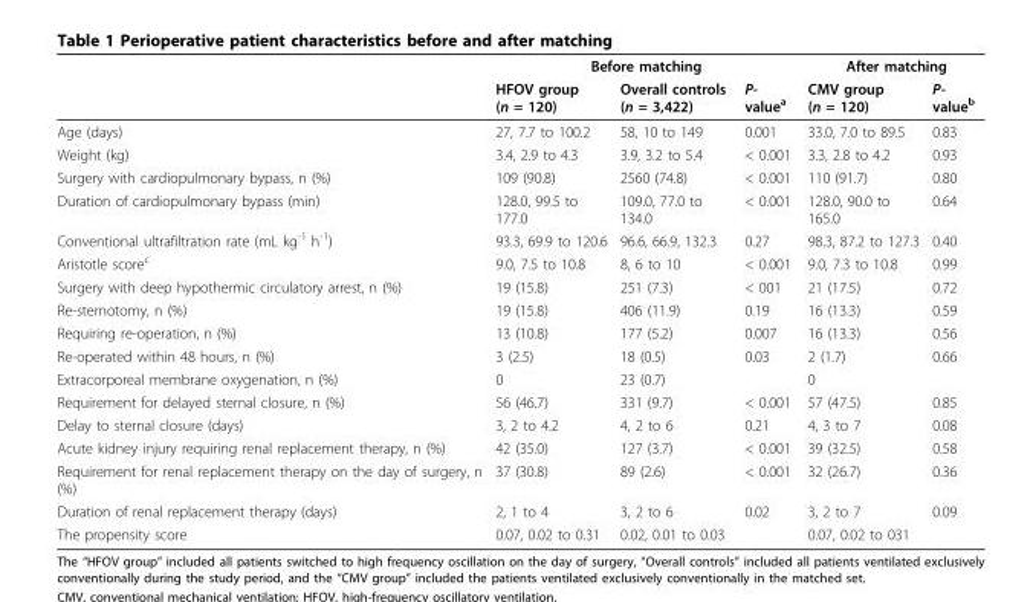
<table><thead><tr><td rowspan="2"></td><td colspan="3">Before matching</td><td colspan="2">After matching</td></tr><tr><td>HFOV group (n = 120)</td><td>Overall controls (n = 3,422)</td><td>P- value<sup>a</sup></td><td>CMV group (n = 120)</td><td>P- value<sup>b</sup></td></tr></thead><tbody><tr><td>Age (days)</td><td>27, 7.7 to 100.2</td><td>58, 10 to 149</td><td>0.001</td><td>33.0, 7.0 to 89.5</td><td>0.83</td></tr><tr><td>Weight (kg)</td><td>3.4, 2.9 to 4.3</td><td>3.9, 3.2 to 5.4</td><td>&lt; 0.001</td><td>3.3, 2.8 to 4.2</td><td>0.93</td></tr><tr><td>Surgery with cardiopulmonary bypass, n (%)</td><td>109 (90.8)</td><td>2560 (74.8)</td><td>&lt; 0.001</td><td>110 (91.7)</td><td>0.80</td></tr><tr><td>Duration of cardiopulmonary bypass (min)</td><td>128.0, 99.5 to 177.0</td><td>109.0, 77.0 to 134.0</td><td>&lt; 0.001</td><td>128.0, 90.0 to 165.0</td><td>0.64</td></tr><tr><td>Conventional ultrafiltration rate (mL kg<sup>-1</sup> h<sup>-1</sup>)</td><td>93.3, 69.9 to 120.6</td><td>96.6, 66.9, 132.3</td><td>0.27</td><td>98.3, 87.2 to 127.3</td><td>0.40</td></tr><tr><td>Aristotle score<sup>c</sup></td><td>9.0, 7.5 to 10.8</td><td>8, 6 to 10</td><td>&lt; 0.001</td><td>9.0, 7.3 to 10.8</td><td>0.99</td></tr><tr><td>Surgery with deep hypothermic circulatory arrest, n (%)</td><td>19 (15.8)</td><td>251 (7.3)</td><td>&lt; 001</td><td>21 (17.5)</td><td>0.72</td></tr><tr><td>Re-sternotomy, n (%)</td><td>19 (15.8)</td><td>406 (11.9)</td><td>0.19</td><td>16 (13.3)</td><td>0.59</td></tr><tr><td>Requiring re-operation, n (%)</td><td>13 (10.8)</td><td>177 (5.2)</td><td>0.007</td><td>16 (13.3)</td><td>0.56</td></tr><tr><td>Re-operated within 48 hours, n (%)</td><td>3 (2.5)</td><td>18 (0.5)</td><td>0.03</td><td>2 (1.7)</td><td>0.66</td></tr><tr><td>Extracorporeal membrane oxygenation, n (%)</td><td>0</td><td>23 (0.7)</td><td></td><td>0</td><td></td></tr><tr><td>Requirement for delayed sternal closure, n (%)</td><td>56 (46.7)</td><td>331 (9.7)</td><td>&lt; 0.001</td><td>57 (47.5)</td><td>0.85</td></tr><tr><td>Delay to sternal closure (days)</td><td>3, 2 to 4.2</td><td>4, 2 to 6</td><td>0.21</td><td>4, 3 to 7</td><td>0.08</td></tr><tr><td>Acute kidney injury requiring renal replacement therapy, n (%)</td><td>42 (35.0)</td><td>127 (3.7)</td><td>&lt; 0.001</td><td>39 (32.5)</td><td>0.58</td></tr><tr><td>Requirement for renal replacement therapy on the day of surgery, n (%)</td><td>37 (30.8)</td><td>89 (2.6)</td><td>&lt; 0.001</td><td>32 (26.7)</td><td>0.36</td></tr><tr><td>Duration of renal replacement therapy (days)</td><td>2, 1 to 4</td><td>3, 2 to 6</td><td>0.02</td><td>3, 2 to 7</td><td>0.09</td></tr><tr><td>The propensity score</td><td>0.07, 0.02 to 0.31</td><td>0.02, 0.01 to 0.03</td><td></td><td>0.07, 0.02 to 031</td><td></td></tr></tbody></table>